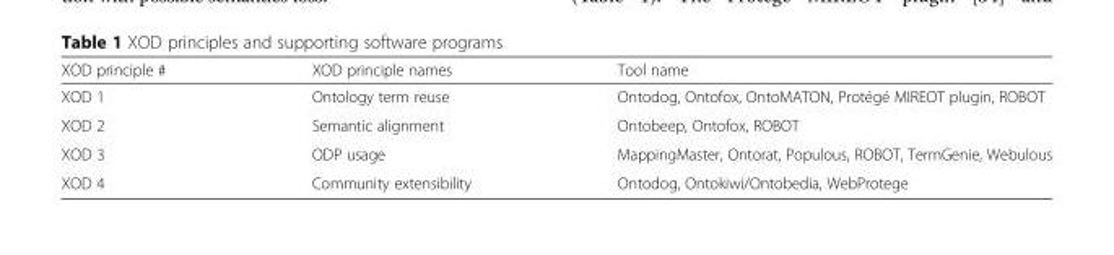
<table><thead><tr><td>XOD principle #</td><td>XOD principle names</td><td>Tool name</td></tr></thead><tbody><tr><td>XOD 1</td><td>Ontology term reuse</td><td>Ontodog, Ontofox, OntoMATON, Protégé MIREOT plugin, ROBOT</td></tr><tr><td>XOD 2</td><td>Semantic alignment</td><td>Ontobeep, Ontofox, ROBOT</td></tr><tr><td>XOD 3</td><td>ODP usage</td><td>MappingMaster, Ontorat, Populous, ROBOT, TermGenie, Webulous</td></tr><tr><td>XOD 4</td><td>Community extensibility</td><td>Ontodog, Ontokiwi/Ontobedia, WebProtege</td></tr></tbody></table>